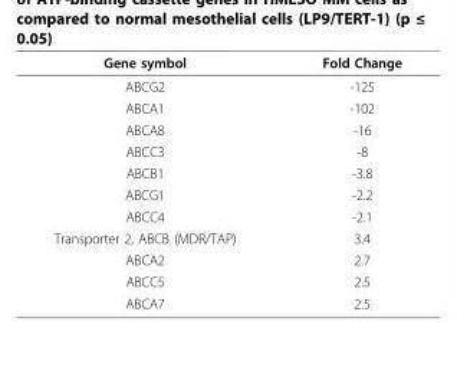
<table><thead><tr><td>Gene symbol</td><td>Fold Change</td></tr></thead><tbody><tr><td>ABCG2</td><td>-125</td></tr><tr><td>ABCA1</td><td>-102</td></tr><tr><td>ABCA8</td><td>-16</td></tr><tr><td>ABCC3</td><td>-8</td></tr><tr><td>ABCB1</td><td>-3.8</td></tr><tr><td>ABCG1</td><td>-2.2</td></tr><tr><td>ABCC4</td><td>-2.1</td></tr><tr><td>Transporter 2, ABCB (MDR/TAP)</td><td>3.4</td></tr><tr><td>ABCA2</td><td>2.7</td></tr><tr><td>ABCC5</td><td>2.5</td></tr><tr><td>ABCA7</td><td>2.5</td></tr></tbody></table>